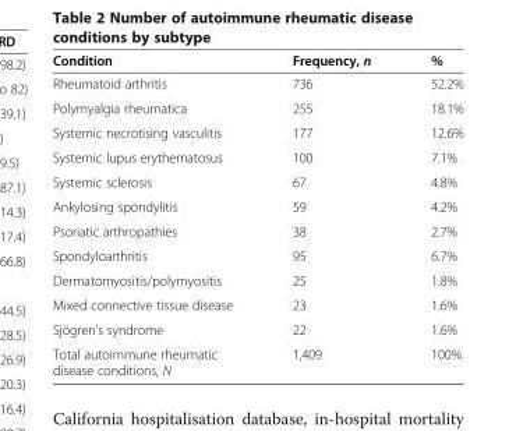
<table><thead><tr><td>Condition</td><td>Frequency, n</td><td>%</td></tr></thead><tbody><tr><td>Rheumatoid arthritis</td><td>736</td><td>52.2%</td></tr><tr><td>Polymyalgia rheumatica</td><td>255</td><td>18.1%</td></tr><tr><td>Systemic necrotising vasculitis</td><td>177</td><td>12.6%</td></tr><tr><td>Systemic lupus erythematosus</td><td>100</td><td>7.1%</td></tr><tr><td>Systemic sclerosis</td><td>67</td><td>4.8%</td></tr><tr><td>Ankylosing spondylitis</td><td>59</td><td>4.2%</td></tr><tr><td>Psoriatic arthropathies</td><td>38</td><td>2.7%</td></tr><tr><td>Spondyloarthritis</td><td>95</td><td>6.7%</td></tr><tr><td>Dermatomyositis/polymyositis</td><td>25</td><td>1.8%</td></tr><tr><td>Mixed connective tissue disease</td><td>23</td><td>1.6%</td></tr><tr><td>Sjögren’s syndrome</td><td>22</td><td>1.6%</td></tr><tr><td>Total autoimmune rheumatic disease conditions, N</td><td>1,409</td><td>100%</td></tr></tbody></table>